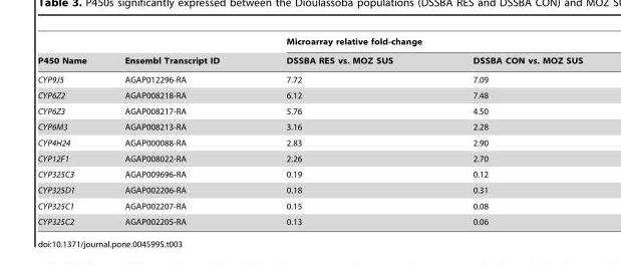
<table><thead><tr><td rowspan="2">P450 Name</td><td rowspan="2">Ensembl Transcript ID</td><td colspan="2">Microarray relative fold-change</td></tr><tr><td>DSSBA RES vs. MOZ SUS</td><td>DSSBA CON vs. MOZ SUS</td></tr></thead><tbody><tr><td>CYP9J5</td><td>AGAP012296-RA</td><td>7.72</td><td>7.09</td></tr><tr><td>CYP6Z2</td><td>AGAP008218-RA</td><td>6.12</td><td>7.48</td></tr><tr><td>CYP6Z3</td><td>AGAP008217-RA</td><td>5.76</td><td>4.50</td></tr><tr><td>CYP6M3</td><td>AGAP008213-RA</td><td>3.16</td><td>2.28</td></tr><tr><td>CYP4H24</td><td>AGAP000088-RA</td><td>2.83</td><td>2.90</td></tr><tr><td>CYP12F1</td><td>AGAP008022-RA</td><td>2.26</td><td>2.70</td></tr><tr><td>CYP325C3</td><td>AGAP009696-RA</td><td>0.19</td><td>0.12</td></tr><tr><td>CYP325D1</td><td>AGAP002206-RA</td><td>0.18</td><td>0.31</td></tr><tr><td>CYP325C1</td><td>AGAP002207-RA</td><td>0.15</td><td>0.08</td></tr><tr><td>CYP325C2</td><td>AGAP002205-RA</td><td>0.13</td><td>0.06</td></tr></tbody></table>